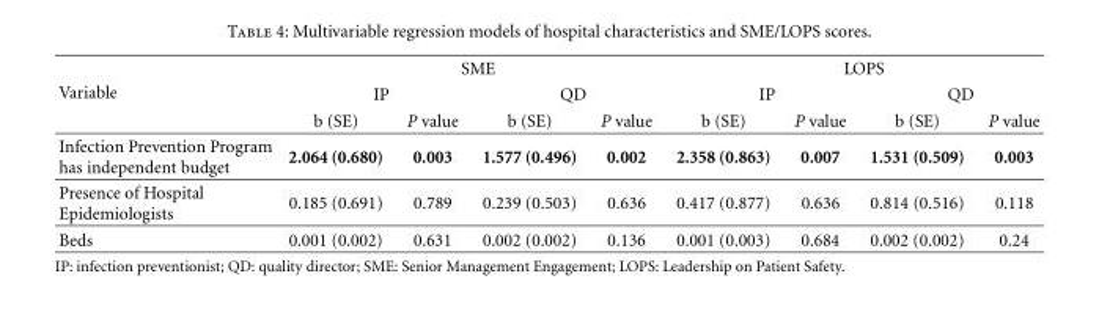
<table><thead><tr><td rowspan="3">Variable</td><td colspan="4">SME</td><td colspan="4">LOPS</td></tr><tr><td colspan="2">IP</td><td colspan="2">QD</td><td colspan="2">IP</td><td colspan="2">QD</td></tr><tr><td>b (SE)</td><td>P value</td><td>b (SE)</td><td>P value</td><td>b (SE)</td><td>P value</td><td>b (SE)</td><td>P value</td></tr></thead><tbody><tr><td>Infection Prevention Program has independent budget</td><td>2.064 (0.680)</td><td>0.003</td><td>1.577 (0.496)</td><td>0.002</td><td>2.358 (0.863)</td><td>0.007</td><td>1.531 (0.509)</td><td>0.003</td></tr><tr><td>Presence of Hospital Epidemiologists</td><td>0.185 (0.691)</td><td>0.789</td><td>0.239 (0.503)</td><td>0.636</td><td>0.417 (0.877)</td><td>0.636</td><td>0.814 (0.516)</td><td>0.118</td></tr><tr><td>Beds</td><td>0.001 (0.002)</td><td>0.631</td><td>0.002 (0.002)</td><td>0.136</td><td>0.001 (0.003)</td><td>0.684</td><td>0.002 (0.002)</td><td>0.24</td></tr></tbody></table>